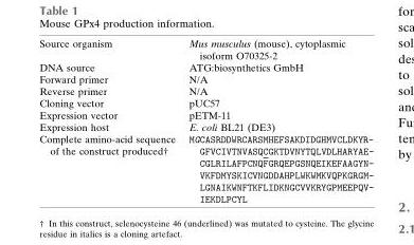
<table><tbody><tr><td>Source organism</td><td>Mus musculus (mouse), cytoplasmic isoform O70325-2</td></tr><tr><td>DNA source</td><td>ATG:biosynthetics GmbH</td></tr><tr><td>Forward primer</td><td>N/A</td></tr><tr><td>Reverse primer</td><td>N/A</td></tr><tr><td>Cloning vector</td><td>pUC57</td></tr><tr><td>Expression vector</td><td>pETM-11</td></tr><tr><td>Expression host</td><td>E. coli BL21 (DE3)</td></tr><tr><td>Complete amino-acid sequence of the construct produced†</td><td>MGCASRDDWRCARSMHEFSAKDIDGHMVCLDKYR- GFVCIVTNVASQCGKTDVNYTQLVDLHARYAE- CGLRILAFPCNQFGRQEPGSNQEIKEFAAGYN- VKFDMYSKICVNGDDAHPLWKWMKVQPKGRGM- LGNAIKWNFTKFLIDKNGCVVKRYGPMEEPQV- IEKDLPCYL</td></tr></tbody></table>